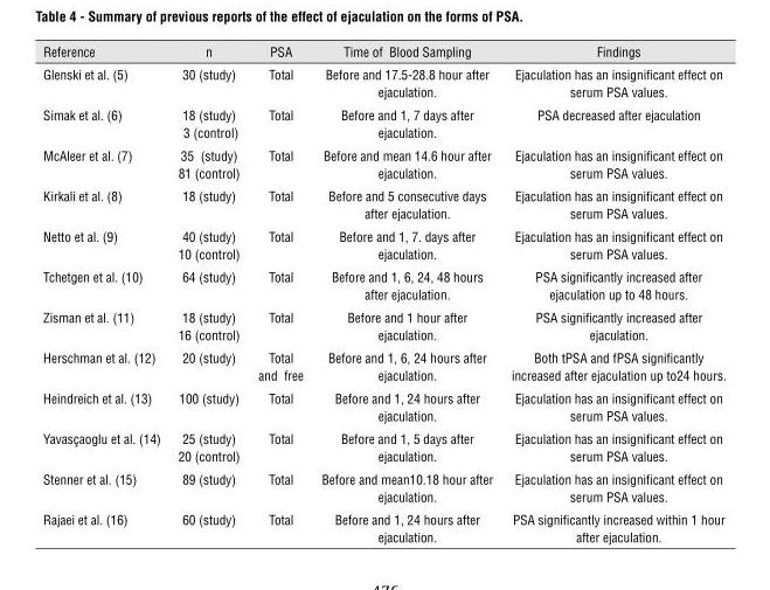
<table><thead><tr><td>Reference</td><td>n</td><td>PSA</td><td>Time of Blood Sampling</td><td>Findings</td></tr></thead><tbody><tr><td>Glenski et al. (5)</td><td>30 (study)</td><td>Total</td><td>Before and 17.5-28.8 hour after ejaculation.</td><td>Ejaculation has an insignificant effect on serum PSA values.</td></tr><tr><td>Simak et al. (6)</td><td>18 (study) 3 (control)</td><td>Total</td><td>Before and 1, 7 days after ejaculation.</td><td>PSA decreased after ejaculation</td></tr><tr><td>McAleer et al. (7)</td><td>35 (study) 81 (control)</td><td>Total</td><td>Before and mean 14.6 hour after ejaculation.</td><td>Ejaculation has an insignificant effect on serum PSA values.</td></tr><tr><td>Kirkali et al. (8)</td><td>18 (study)</td><td>Total</td><td>Before and 5 consecutive days after ejaculation.</td><td>Ejaculation has an insignificant effect on serum PSA values.</td></tr><tr><td>Netto et al. (9)</td><td>40 (study) 10 (control)</td><td>Total</td><td>Before and 1, 7. days after ejaculation.</td><td>Ejaculation has an insignificant effect on serum PSA values.</td></tr><tr><td>Tchetgen et al. (10)</td><td>64 (study)</td><td>Total</td><td>Before and 1, 6, 24, 48 hours after ejaculation.</td><td>PSA significantly increased after ejaculation up to 48 hours.</td></tr><tr><td>Zisman et al. (11)</td><td>18 (study) 16 (control)</td><td>Total</td><td>Before and 1 hour after ejaculation.</td><td>PSA significantly increased after ejaculation.</td></tr><tr><td>Herschman et al. (12)</td><td>20 (study)</td><td>Total and free</td><td>Before and 1, 6, 24 hours after ejaculation.</td><td>Both tPSA and fPSA significantly increased after ejaculation up to24 hours.</td></tr><tr><td>Heindreich et al. (13)</td><td>100 (study)</td><td>Total</td><td>Before and 1, 24 hours after ejaculation.</td><td>Ejaculation has an insignificant effect on serum PSA values.</td></tr><tr><td>Yavasçaoglu et al. (14)</td><td>25 (study) 20 (control)</td><td>Total</td><td>Before and 1, 5 days after ejaculation.</td><td>Ejaculation has an insignificant effect on serum PSA values.</td></tr><tr><td>Stenner et al. (15)</td><td>89 (study)</td><td>Total</td><td>Before and mean10.18 hour after ejaculation.</td><td>Ejaculation has an insignificant effect on serum PSA values.</td></tr><tr><td>Rajaei et al. (16)</td><td>60 (study)</td><td>Total</td><td>Before and 1, 24 hours after ejaculation.</td><td>PSA significantly increased within 1 hour after ejaculation.</td></tr></tbody></table>